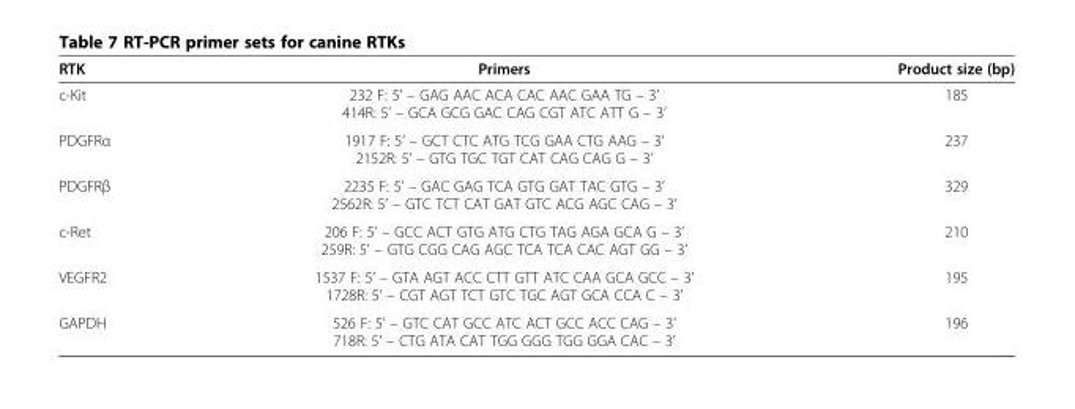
<table><thead><tr><td>RTK</td><td>Primers</td><td>Product size (bp)</td></tr></thead><tbody><tr><td>c-Kit</td><td>232 F: 5’ – GAG AAC ACA CAC AAC GAA TG – 3’ 414R: 5’ – GCA GCG GAC CAG CGT ATC ATT G – 3’</td><td>185</td></tr><tr><td>PDGFRα</td><td>1917 F: 5’ – GCT CTC ATG TCG GAA CTG AAG – 3’ 2152R: 5’ – GTG TGC TGT CAT CAG CAG G – 3’</td><td>237</td></tr><tr><td>PDGFRβ</td><td>2235 F: 5’ – GAC GAG TCA GTG GAT TAC GTG – 3’ 2562R: 5’ – GTC TCT CAT GAT GTC ACG AGC CAG – 3’</td><td>329</td></tr><tr><td>c-Ret</td><td>206 F: 5’ – GCC ACT GTG ATG CTG TAG AGA GCA G – 3’ 259R: 5’ – GTG CGG CAG AGC TCA TCA CAC AGT GG – 3’</td><td>210</td></tr><tr><td>VEGFR2</td><td>1537 F: 5’ – GTA AGT ACC CTT GTT ATC CAA GCA GCC – 3’ 1728R: 5’ – CGT AGT TCT GTC TGC AGT GCA CCA C – 3’</td><td>195</td></tr><tr><td>GAPDH</td><td>526 F: 5’ – GTC CAT GCC ATC ACT GCC ACC CAG – 3’ 718R: 5’ – CTG ATA CAT TGG GGG TGG GGA CAC – 3’</td><td>196</td></tr></tbody></table>